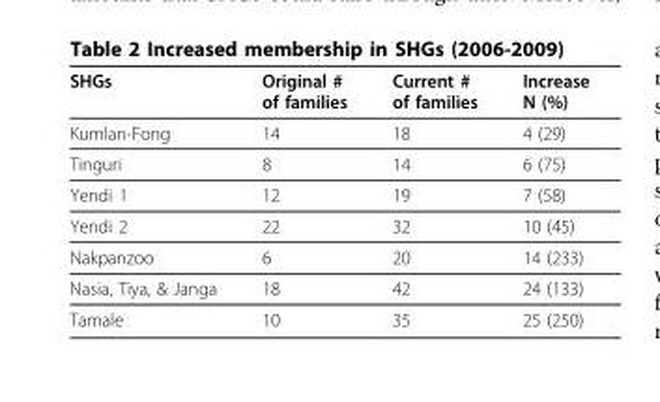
<table><thead><tr><td>SHGs</td><td>Original # of families</td><td>Current # of families</td><td>Increase N (%)</td></tr></thead><tbody><tr><td>Kumlan-Fong</td><td>14</td><td>18</td><td>4 (29)</td></tr><tr><td>Tinguri</td><td>8</td><td>14</td><td>6 (75)</td></tr><tr><td>Yendi 1</td><td>12</td><td>19</td><td>7 (58)</td></tr><tr><td>Yendi 2</td><td>22</td><td>32</td><td>10 (45)</td></tr><tr><td>Nakpanzoo</td><td>6</td><td>20</td><td>14 (233)</td></tr><tr><td>Nasia, Tiya, &amp; Janga</td><td>18</td><td>42</td><td>24 (133)</td></tr><tr><td>Tamale</td><td>10</td><td>35</td><td>25 (250)</td></tr></tbody></table>